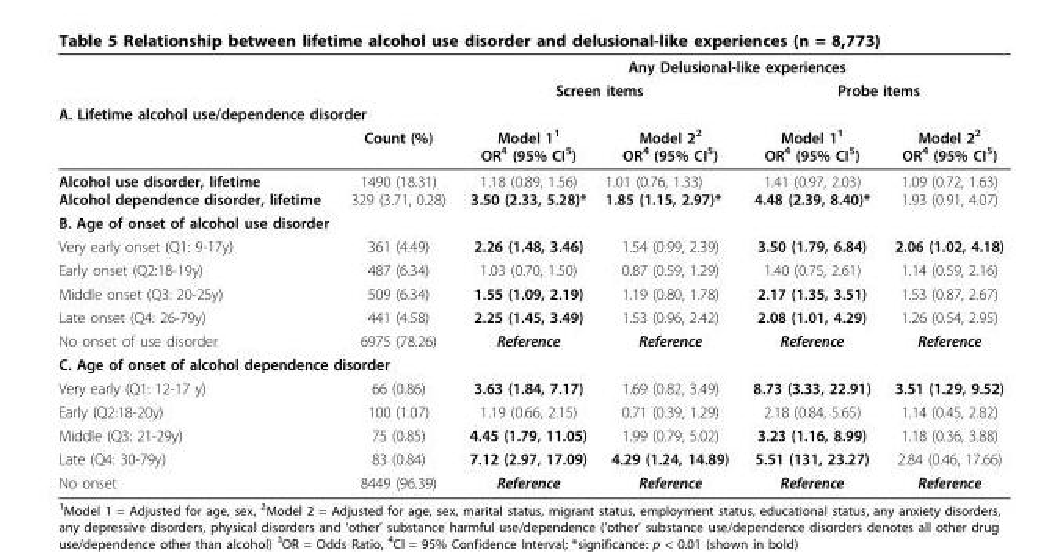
<table><thead><tr><td rowspan="2"></td><td rowspan="2"></td><td colspan="4">Any Delusional-like experiences</td></tr><tr><td colspan="2">Screen items</td><td colspan="2">Probe items</td></tr><tr><td colspan="6">A. Lifetime alcohol use/dependence disorder</td></tr><tr><td></td><td>Count (%)</td><td>Model 1<sup>1</sup> OR<sup>4</sup> (95% CI<sup>5</sup>)</td><td>Model 2<sup>2</sup> OR<sup>4</sup> (95% CI<sup>5</sup>)</td><td>Model 1<sup>1</sup> OR<sup>4</sup> (95% CI<sup>5</sup>)</td><td>Model 2<sup>2</sup> OR<sup>4</sup> (95% CI<sup>5</sup>)</td></tr></thead><tbody><tr><td>Alcohol use disorder, lifetime Alcohol dependence disorder, lifetime</td><td>1490 (18.31) 329 (3.71, 0.28)</td><td>1.18 (0.89, 1.56) 3.50 (2.33, 5.28)*</td><td>1.01 (0.76, 1.33) 1.85 (1.15, 2.97)*</td><td>1.41 (0.97, 2.03) 4.48 (2.39, 8.40)*</td><td>1.09 (0.72, 1.63) 1.93 (0.91, 4.07)</td></tr><tr><td colspan="6">B. Age of onset of alcohol use disorder</td></tr><tr><td>Very early onset (Q1: 9-17y)</td><td>361 (4.49)</td><td>2.26 (1.48, 3.46)</td><td>1.54 (0.99, 2.39)</td><td>3.50 (1.79, 6.84)</td><td>2.06 (1.02, 4.18)</td></tr><tr><td>Early onset (Q2:18-19y)</td><td>487 (6.34)</td><td>1.03 (0.70, 1.50)</td><td>0.87 (0.59, 1.29)</td><td>1.40 (0.75, 2.61)</td><td>1.14 (0.59, 2.16)</td></tr><tr><td>Middle onset (Q3: 20-25y)</td><td>509 (6.34)</td><td>1.55 (1.09, 2.19)</td><td>1.19 (0.80, 1.78)</td><td>2.17 (1.35, 3.51)</td><td>1.53 (0.87, 2.67)</td></tr><tr><td>Late onset (Q4: 26-79y)</td><td>441 (4.58)</td><td>2.25 (1.45, 3.49)</td><td>1.53 (0.96, 2.42)</td><td>2.08 (1.01, 4.29)</td><td>1.26 (0.54, 2.95)</td></tr><tr><td>No onset of use disorder</td><td>6975 (78.26)</td><td>Reference</td><td>Reference</td><td>Reference</td><td>Reference</td></tr><tr><td colspan="6">C. Age of onset of alcohol dependence disorder</td></tr><tr><td>Very early (Q1: 12-17 y)</td><td>66 (0.86)</td><td>3.63 (1.84, 7.17)</td><td>1.69 (0.82, 3.49)</td><td>8.73 (3.33, 22.91)</td><td>3.51 (1.29, 9.52)</td></tr><tr><td>Early (Q2:18-20y)</td><td>100 (1.07)</td><td>1.19 (0.66, 2.15)</td><td>0.71 (0.39, 1.29)</td><td>2.18 (0.84, 5.65)</td><td>1.14 (0.45, 2.82)</td></tr><tr><td>Middle (Q3: 21-29y)</td><td>75 (0.85)</td><td>4.45 (1.79, 11.05)</td><td>1.99 (0.79, 5.02)</td><td>3.23 (1.16, 8.99)</td><td>1.18 (0.36, 3.88)</td></tr><tr><td>Late (Q4: 30-79y)</td><td>83 (0.84)</td><td>7.12 (2.97, 17.09)</td><td>4.29 (1.24, 14.89)</td><td>5.51 (131, 23.27)</td><td>2.84 (0.46, 17.66)</td></tr><tr><td>No onset</td><td>8449 (96.39)</td><td>Reference</td><td>Reference</td><td>Reference</td><td>Reference</td></tr></tbody></table>